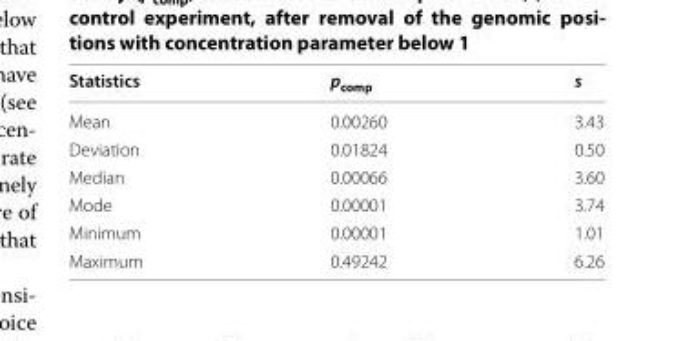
<table><thead><tr><td>Statistics</td><td>p<sub>comp</sub></td><td>s</td></tr></thead><tbody><tr><td>Mean</td><td>0.00260</td><td>3.43</td></tr><tr><td>Deviation</td><td>0.01824</td><td>0.50</td></tr><tr><td>Median</td><td>0.00066</td><td>3.60</td></tr><tr><td>Mode</td><td>0.00001</td><td>3.74</td></tr><tr><td>Minimum</td><td>0.00001</td><td>1.01</td></tr><tr><td>Maximum</td><td>0.49242</td><td>6.26</td></tr></tbody></table>